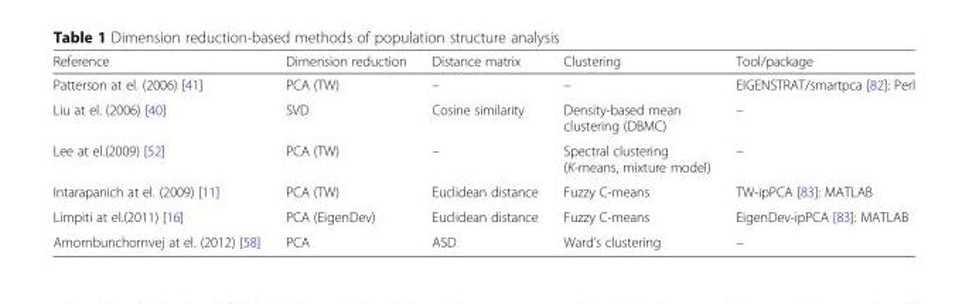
<table><thead><tr><td>Reference</td><td>Dimension reduction</td><td>Distance matrix</td><td>Clustering</td><td>Tool/package</td></tr></thead><tbody><tr><td>Patterson at el. (2006) [41]</td><td>PCA (TW)</td><td>–</td><td>–</td><td>EIGENSTRAT/smartpca [82]: Perl</td></tr><tr><td>Liu at el. (2006) [40]</td><td>SVD</td><td>Cosine similarity</td><td>Density-based mean clustering (DBMC)</td><td>–</td></tr><tr><td>Lee at el.(2009) [52]</td><td>PCA (TW)</td><td>–</td><td>Spectral clustering (K-means, mixture model)</td><td>–</td></tr><tr><td>Intarapanich at el. (2009) [11]</td><td>PCA (TW)</td><td>Euclidean distance</td><td>Fuzzy C-means</td><td>TW-ipPCA [83]: MATLAB</td></tr><tr><td>Limpiti at el.(2011) [16]</td><td>PCA (EigenDev)</td><td>Euclidean distance</td><td>Fuzzy C-means</td><td>EigenDev-ipPCA [83]: MATLAB</td></tr><tr><td>Amornbunchornvej at el. (2012) [58]</td><td>PCA</td><td>ASD</td><td>Ward’s clustering</td><td>–</td></tr></tbody></table>